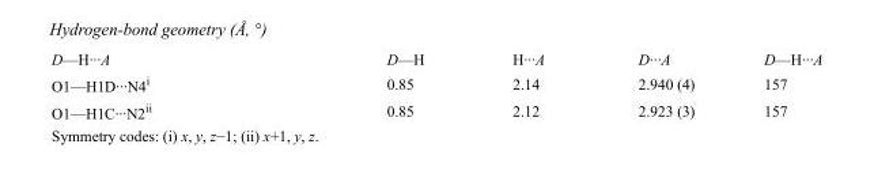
<table><tbody><tr><td>D—H···A</td><td>D—H</td><td>H···A</td><td>D···A</td><td>D—H···A</td></tr><tr><td>O1—H1D···N4<sup>i</sup></td><td>0.85</td><td>2.14</td><td>2.940 (4)</td><td>157</td></tr><tr><td>O1—H1C···N2<sup>ii</sup></td><td>0.85</td><td>2.12</td><td>2.923 (3)</td><td>157</td></tr></tbody></table>